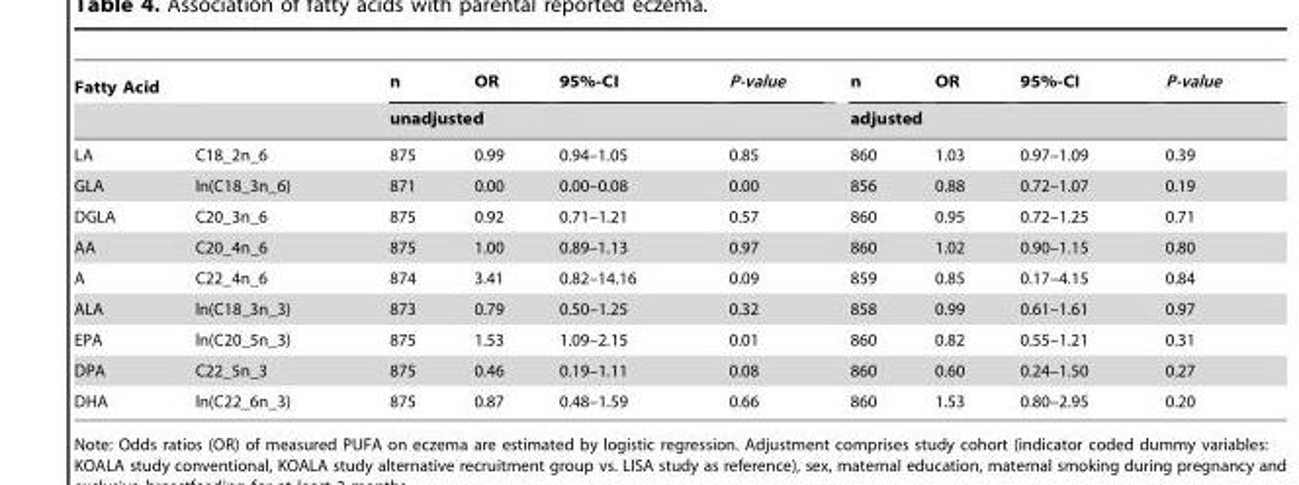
<table><thead><tr><td colspan="2">Fatty Acid</td><td>n</td><td>OR</td><td>95%-CI</td><td>P-value</td><td>n</td><td>OR</td><td>95%-CI</td><td>P-value</td></tr><tr><td></td><td></td><td colspan="4">unadjusted</td><td colspan="4">adjusted</td></tr></thead><tbody><tr><td>LA</td><td>C18_2n_6</td><td>875</td><td>0.99</td><td>0.94–1.05</td><td>0.85</td><td>860</td><td>1.03</td><td>0.97–1.09</td><td>0.39</td></tr><tr><td>GLA</td><td>ln(C18_3n_6)</td><td>871</td><td>0.00</td><td>0.00–0.08</td><td>0.00</td><td>856</td><td>0.88</td><td>0.72–1.07</td><td>0.19</td></tr><tr><td>DGLA</td><td>C20_3n_6</td><td>875</td><td>0.92</td><td>0.71–1.21</td><td>0.57</td><td>860</td><td>0.95</td><td>0.72–1.25</td><td>0.71</td></tr><tr><td>AA</td><td>C20_4n_6</td><td>875</td><td>1.00</td><td>0.89–1.13</td><td>0.97</td><td>860</td><td>1.02</td><td>0.90–1.15</td><td>0.80</td></tr><tr><td>A</td><td>C22_4n_6</td><td>874</td><td>3.41</td><td>0.82–14.16</td><td>0.09</td><td>859</td><td>0.85</td><td>0.17–4.15</td><td>0.84</td></tr><tr><td>ALA</td><td>ln(C18_3n_3)</td><td>873</td><td>0.79</td><td>0.50–1.25</td><td>0.32</td><td>858</td><td>0.99</td><td>0.61–1.61</td><td>0.97</td></tr><tr><td>EPA</td><td>ln(C20_5n_3)</td><td>875</td><td>1.53</td><td>1.09–2.15</td><td>0.01</td><td>860</td><td>0.82</td><td>0.55–1.21</td><td>0.31</td></tr><tr><td>DPA</td><td>C22_5n_3</td><td>875</td><td>0.46</td><td>0.19–1.11</td><td>0.08</td><td>860</td><td>0.60</td><td>0.24–1.50</td><td>0.27</td></tr><tr><td>DHA</td><td>ln(C22_6n_3)</td><td>875</td><td>0.87</td><td>0.48–1.59</td><td>0.66</td><td>860</td><td>1.53</td><td>0.80–2.95</td><td>0.20</td></tr></tbody></table>